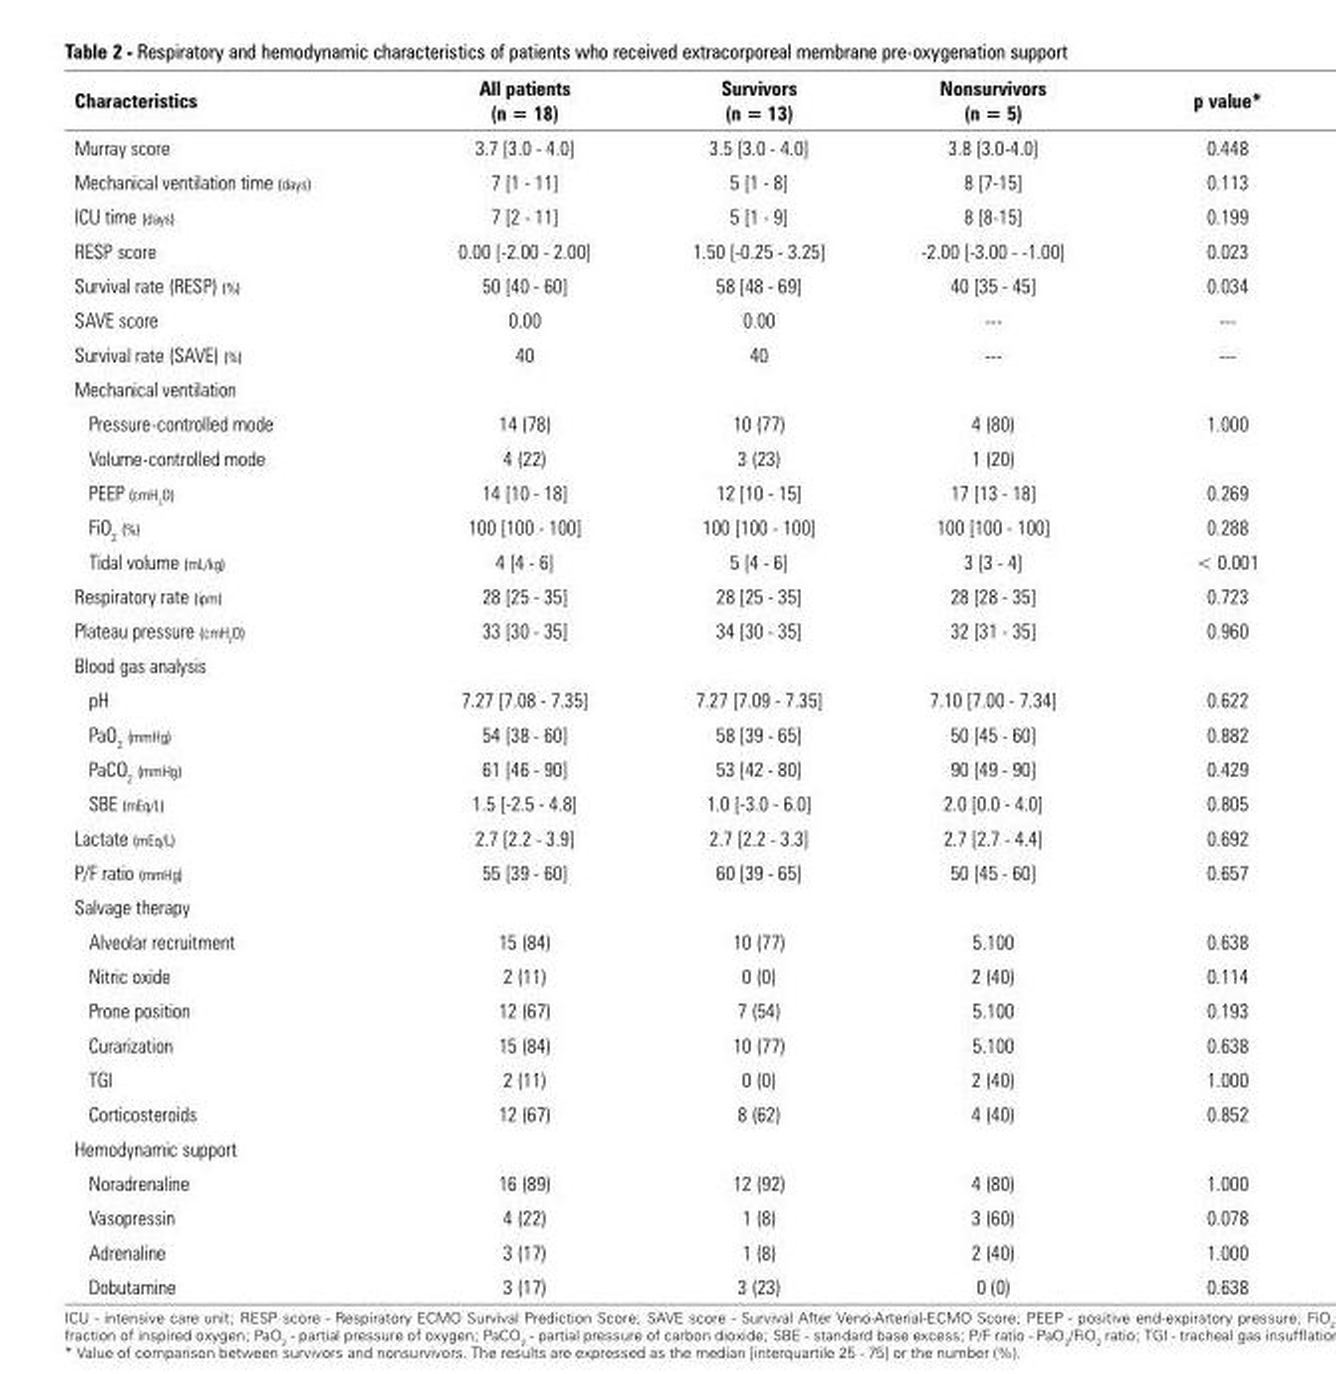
<table><thead><tr><td>Characteristics</td><td>All patients (n = 18)</td><td>Survivors (n = 13)</td><td>Nonsurvivors (n = 5)</td><td>p value*</td></tr></thead><tbody><tr><td>Murray score</td><td>3.7 [3.0 - 4.0]</td><td>3.5 [3.0 - 4.0]</td><td>3.8 [3.0-4.0]</td><td>0.448</td></tr><tr><td>Mechanical ventilation time (days)</td><td>7 [1 - 11]</td><td>5 [1 - 8]</td><td>8 [7-15]</td><td>0.113</td></tr><tr><td>ICU time (days)</td><td>7 [2 - 11]</td><td>5 [1 - 9]</td><td>8 [8-15]</td><td>0.199</td></tr><tr><td>RESP score</td><td>0.00 [-2.00 - 2.00]</td><td>1.50 [-0.25 - 3.25]</td><td>-2.00 [-3.00 - -1.00]</td><td>0.023</td></tr><tr><td>Survival rate (RESP) (%)</td><td>50 [40 - 60]</td><td>58 [48 - 69]</td><td>40 [35 - 45]</td><td>0.034</td></tr><tr><td>SAVE score</td><td>0.00</td><td>0.00</td><td>---</td><td>---</td></tr><tr><td>Survival rate (SAVE) (%)</td><td>40</td><td>40</td><td>---</td><td>---</td></tr><tr><td colspan="5">Mechanical ventilation</td></tr><tr><td>Pressure-controlled mode</td><td>14 (78)</td><td>10 (77)</td><td>4 (80)</td><td>1.000</td></tr><tr><td>Volume-controlled mode</td><td>4 (22)</td><td>3 (23)</td><td>1 (20)</td><td></td></tr><tr><td>PEEP (cmH<sub>2</sub>O)</td><td>14 [10 - 18]</td><td>12 [10 - 15]</td><td>17 [13 - 18]</td><td>0.269</td></tr><tr><td>FiO<sub>2</sub> (%)</td><td>100 [100 - 100]</td><td>100 [100 - 100]</td><td>100 [100 - 100]</td><td>0.288</td></tr><tr><td>Tidal volume (mL/kg)</td><td>4 [4 - 6]</td><td>5 [4 - 6]</td><td>3 [3 - 4]</td><td>&lt; 0.001</td></tr><tr><td>Respiratory rate (ipm)</td><td>28 [25 - 35]</td><td>28 [25 - 35]</td><td>28 [28 - 35]</td><td>0.723</td></tr><tr><td>Plateau pressure (cmH<sub>2</sub>O)</td><td>33 [30 - 35]</td><td>34 [30 - 35]</td><td>32 [31 - 35]</td><td>0.960</td></tr><tr><td colspan="5">Blood gas analysis</td></tr><tr><td>pH</td><td>7.27 [7.08 - 7.35]</td><td>7.27 [7.09 - 7.35]</td><td>7.10 [7.00 - 7.34]</td><td>0.622</td></tr><tr><td>PaO<sub>2</sub> (mmHg)</td><td>54 [38 - 60]</td><td>58 [39 - 65]</td><td>50 [45 - 60]</td><td>0.882</td></tr><tr><td>PaCO<sub>2</sub> (mmHg)</td><td>61 [46 - 90]</td><td>53 [42 - 80]</td><td>90 [49 - 90]</td><td>0.429</td></tr><tr><td>SBE (mEq/L)</td><td>1.5 [-2.5 - 4.8]</td><td>1.0 [-3.0 - 6.0]</td><td>2.0 [0.0 - 4.0]</td><td>0.805</td></tr><tr><td>Lactate (mEq/L)</td><td>2.7 [2.2 - 3.9]</td><td>2.7 [2.2 - 3.3]</td><td>2.7 [2.7 - 4.4]</td><td>0.692</td></tr><tr><td>P/F ratio (mmHg)</td><td>55 [39 - 60]</td><td>60 [39 - 65]</td><td>50 [45 - 60]</td><td>0.657</td></tr><tr><td colspan="5">Salvage therapy</td></tr><tr><td>Alveolar recruitment</td><td>15 (84)</td><td>10 (77)</td><td>5.100</td><td>0.638</td></tr><tr><td>Nitric oxide</td><td>2 (11)</td><td>0 (0)</td><td>2 (40)</td><td>0.114</td></tr><tr><td>Prone position</td><td>12 (67)</td><td>7 (54)</td><td>5.100</td><td>0.193</td></tr><tr><td>Curarization</td><td>15 (84)</td><td>10 (77)</td><td>5.100</td><td>0.638</td></tr><tr><td>TGI</td><td>2 (11)</td><td>0 (0)</td><td>2 (40)</td><td>1.000</td></tr><tr><td>Corticosteroids</td><td>12 (67)</td><td>8 (62)</td><td>4 (40)</td><td>0.852</td></tr><tr><td colspan="5">Hemodynamic support</td></tr><tr><td>Noradrenaline</td><td>16 (89)</td><td>12 (92)</td><td>4 (80)</td><td>1.000</td></tr><tr><td>Vasopressin</td><td>4 (22)</td><td>1 (8)</td><td>3 (60)</td><td>0.078</td></tr><tr><td>Adrenaline</td><td>3 (17)</td><td>1 (8)</td><td>2 (40)</td><td>1.000</td></tr><tr><td>Dobutamine</td><td>3 (17)</td><td>3 (23)</td><td>0 (0)</td><td>0.638</td></tr></tbody></table>